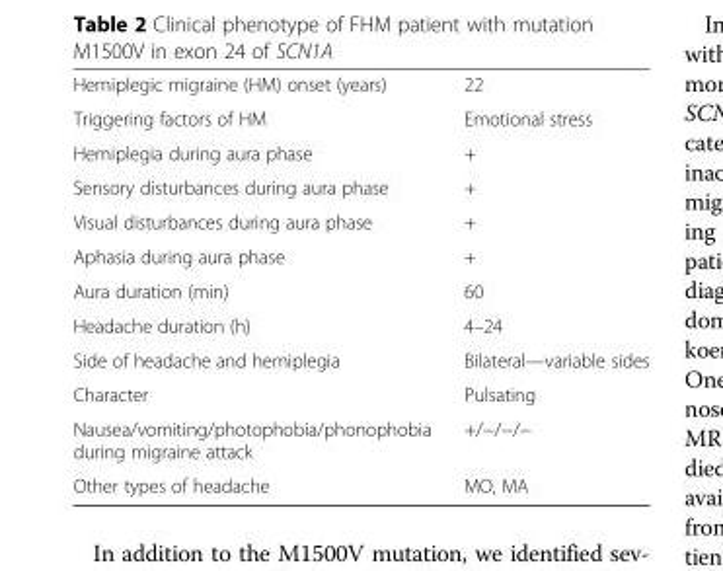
<table><tbody><tr><td>Hemiplegic migraine (HM) onset (years)</td><td>22</td></tr><tr><td>Triggering factors of HM</td><td>Emotional stress</td></tr><tr><td>Hemiplegia during aura phase</td><td>+</td></tr><tr><td>Sensory disturbances during aura phase</td><td>+</td></tr><tr><td>Visual disturbances during aura phase</td><td>+</td></tr><tr><td>Aphasia during aura phase</td><td>+</td></tr><tr><td>Aura duration (min)</td><td>60</td></tr><tr><td>Headache duration (h)</td><td>4–24</td></tr><tr><td>Side of headache and hemiplegia</td><td>Bilateral—variable sides</td></tr><tr><td>Character</td><td>Pulsating</td></tr><tr><td>Nausea/vomiting/photophobia/phonophobia during migraine attack</td><td>+/−/−/−</td></tr><tr><td>Other types of headache</td><td>MO, MA</td></tr></tbody></table>